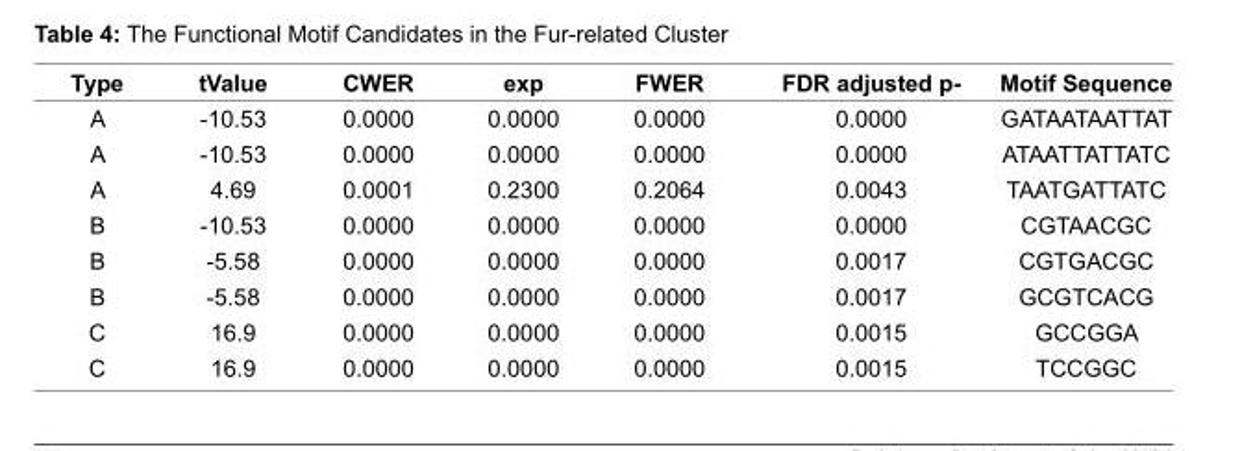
<table><thead><tr><td>Type</td><td>tValue</td><td>CWER</td><td>exp</td><td>FWER</td><td>FDR adjusted p-</td><td>Motif Sequence</td></tr></thead><tbody><tr><td>A</td><td>-10.53</td><td>0.0000</td><td>0.0000</td><td>0.0000</td><td>0.0000</td><td>GATAATAATTAT</td></tr><tr><td>A</td><td>-10.53</td><td>0.0000</td><td>0.0000</td><td>0.0000</td><td>0.0000</td><td>ATAATTATTATC</td></tr><tr><td>A</td><td>4.69</td><td>0.0001</td><td>0.2300</td><td>0.2064</td><td>0.0043</td><td>TAATGATTATC</td></tr><tr><td>B</td><td>-10.53</td><td>0.0000</td><td>0.0000</td><td>0.0000</td><td>0.0000</td><td>CGTAACGC</td></tr><tr><td>B</td><td>-5.58</td><td>0.0000</td><td>0.0000</td><td>0.0000</td><td>0.0017</td><td>CGTGACGC</td></tr><tr><td>B</td><td>-5.58</td><td>0.0000</td><td>0.0000</td><td>0.0000</td><td>0.0017</td><td>GCGTCACG</td></tr><tr><td>C</td><td>16.9</td><td>0.0000</td><td>0.0000</td><td>0.0000</td><td>0.0015</td><td>GCCGGA</td></tr><tr><td>C</td><td>16.9</td><td>0.0000</td><td>0.0000</td><td>0.0000</td><td>0.0015</td><td>TCCGGC</td></tr></tbody></table>